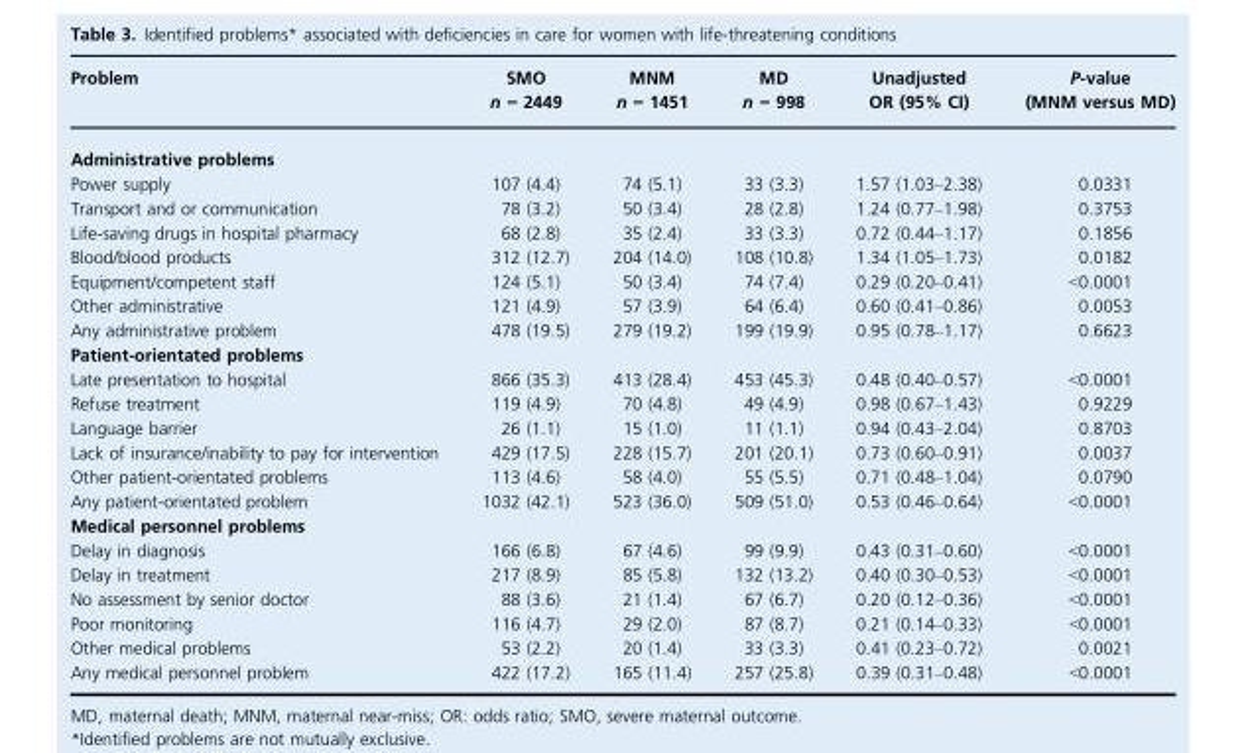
<table><thead><tr><td>Problem</td><td>SMO n = 2449</td><td>MNM n = 1451</td><td>MD n = 998</td><td>Unadjusted OR (95% CI)</td><td>P-value (MNM versus MD)</td></tr></thead><tbody><tr><td colspan="6">Administrative problems</td></tr><tr><td>Power supply</td><td>107 (4.4)</td><td>74 (5.1)</td><td>33 (3.3)</td><td>1.57 (1.03–2.38)</td><td>0.0331</td></tr><tr><td>Transport and or communication</td><td>78 (3.2)</td><td>50 (3.4)</td><td>28 (2.8)</td><td>1.24 (0.77–1.98)</td><td>0.3753</td></tr><tr><td>Life-saving drugs in hospital pharmacy</td><td>68 (2.8)</td><td>35 (2.4)</td><td>33 (3.3)</td><td>0.72 (0.44–1.17)</td><td>0.1856</td></tr><tr><td>Blood/blood products</td><td>312 (12.7)</td><td>204 (14.0)</td><td>108 (10.8)</td><td>1.34 (1.05–1.73)</td><td>0.0182</td></tr><tr><td>Equipment/competent staff</td><td>124 (5.1)</td><td>50 (3.4)</td><td>74 (7.4)</td><td>0.29 (0.20–0.41)</td><td>&lt;0.0001</td></tr><tr><td>Other administrative</td><td>121 (4.9)</td><td>57 (3.9)</td><td>64 (6.4)</td><td>0.60 (0.41–0.86)</td><td>0.0053</td></tr><tr><td>Any administrative problem</td><td>478 (19.5)</td><td>279 (19.2)</td><td>199 (19.9)</td><td>0.95 (0.78–1.17)</td><td>0.6623</td></tr><tr><td colspan="6">Patient-orientated problems</td></tr><tr><td>Late presentation to hospital</td><td>866 (35.3)</td><td>413 (28.4)</td><td>453 (45.3)</td><td>0.48 (0.40–0.57)</td><td>&lt;0.0001</td></tr><tr><td>Refuse treatment</td><td>119 (4.9)</td><td>70 (4.8)</td><td>49 (4.9)</td><td>0.98 (0.67–1.43)</td><td>0.9229</td></tr><tr><td>Language barrier</td><td>26 (1.1)</td><td>15 (1.0)</td><td>11 (1.1)</td><td>0.94 (0.43–2.04)</td><td>0.8703</td></tr><tr><td>Lack of insurance/inability to pay for intervention</td><td>429 (17.5)</td><td>228 (15.7)</td><td>201 (20.1)</td><td>0.73 (0.60–0.91)</td><td>0.0037</td></tr><tr><td>Other patient-orientated problems</td><td>113 (4.6)</td><td>58 (4.0)</td><td>55 (5.5)</td><td>0.71 (0.48–1.04)</td><td>0.0790</td></tr><tr><td>Any patient-orientated problem</td><td>1032 (42.1)</td><td>523 (36.0)</td><td>509 (51.0)</td><td>0.53 (0.46–0.64)</td><td>&lt;0.0001</td></tr><tr><td colspan="6">Medical personnel problems</td></tr><tr><td>Delay in diagnosis</td><td>166 (6.8)</td><td>67 (4.6)</td><td>99 (9.9)</td><td>0.43 (0.31–0.60)</td><td>&lt;0.0001</td></tr><tr><td>Delay in treatment</td><td>217 (8.9)</td><td>85 (5.8)</td><td>132 (13.2)</td><td>0.40 (0.30–0.53)</td><td>&lt;0.0001</td></tr><tr><td>No assessment by senior doctor</td><td>88 (3.6)</td><td>21 (1.4)</td><td>67 (6.7)</td><td>0.20 (0.12–0.36)</td><td>&lt;0.0001</td></tr><tr><td>Poor monitoring</td><td>116 (4.7)</td><td>29 (2.0)</td><td>87 (8.7)</td><td>0.21 (0.14–0.33)</td><td>&lt;0.0001</td></tr><tr><td>Other medical problems</td><td>53 (2.2)</td><td>20 (1.4)</td><td>33 (3.3)</td><td>0.41 (0.23–0.72)</td><td>0.0021</td></tr><tr><td>Any medical personnel problem</td><td>422 (17.2)</td><td>165 (11.4)</td><td>257 (25.8)</td><td>0.39 (0.31–0.48)</td><td>&lt;0.0001</td></tr></tbody></table>